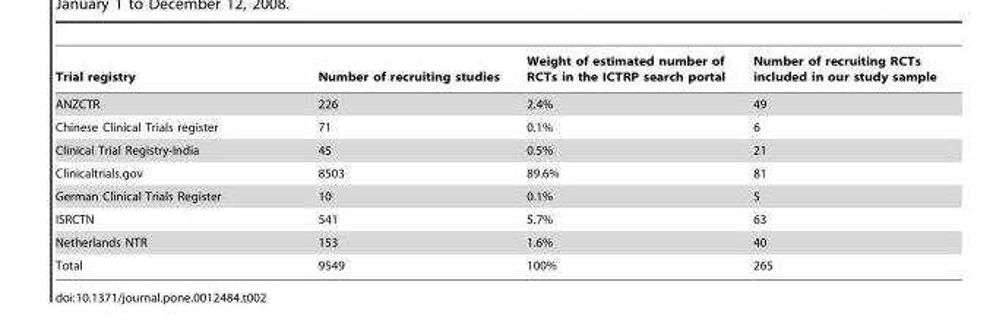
<table><thead><tr><td>Trial registry</td><td>Number of recruiting studies</td><td>Weight of estimated number of RCTs in the ICTRP search portal</td><td>Number of recruiting RCTs included in our study sample</td></tr></thead><tbody><tr><td>ANZCTR</td><td>226</td><td>2.4%</td><td>49</td></tr><tr><td>Chinese Clinical Trials register</td><td>71</td><td>0.1%</td><td>6</td></tr><tr><td>Clinical Trial Registry-India</td><td>45</td><td>0.5%</td><td>21</td></tr><tr><td>Clinicaltrials.gov</td><td>8503</td><td>89.6%</td><td>81</td></tr><tr><td>German Clinical Trials Register</td><td>10</td><td>0.1%</td><td>5</td></tr><tr><td>ISRCTN</td><td>541</td><td>5.7%</td><td>63</td></tr><tr><td>Netherlands NTR</td><td>153</td><td>1.6%</td><td>40</td></tr><tr><td>Total</td><td>9549</td><td>100%</td><td>265</td></tr></tbody></table>